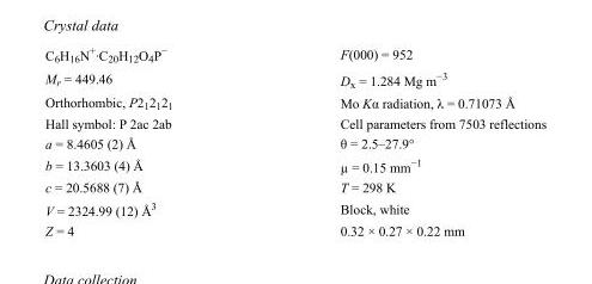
<table><tbody><tr><td>C<sub>6</sub>H<sub>16</sub>N<sup>+</sup>·C<sub>20</sub>H<sub>12</sub>O<sub>4</sub>P<sup>−</sup></td><td>F(000) = 952</td></tr><tr><td>M<sub>r</sub> = 449.46</td><td>D<sub>x</sub> = 1.284 Mg m<sup>−3</sup></td></tr><tr><td>Orthorhombic, P2<sub>1</sub>2<sub>1</sub>2<sub>1</sub></td><td>Mo Kα radiation, λ = 0.71073 Å</td></tr><tr><td>Hall symbol: P 2ac 2ab</td><td>Cell parameters from 7503 reflections</td></tr><tr><td>a = 8.4605 (2) Å</td><td>θ = 2.5–27.9°</td></tr><tr><td>b = 13.3603 (4) Å</td><td>µ = 0.15 mm<sup>−1</sup></td></tr><tr><td>c = 20.5688 (7) Å</td><td>T = 298 K</td></tr><tr><td>V = 2324.99 (12) Å<sup>3</sup></td><td>Block, white</td></tr><tr><td>Z = 4</td><td>0.32 × 0.27 × 0.22 mm</td></tr></tbody></table>